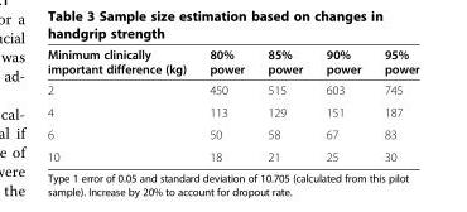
<table><thead><tr><td>Minimum clinically important difference (kg)</td><td>80% power</td><td>85% power</td><td>90% power</td><td>95% power</td></tr></thead><tbody><tr><td>2</td><td>450</td><td>515</td><td>603</td><td>745</td></tr><tr><td>4</td><td>113</td><td>129</td><td>151</td><td>187</td></tr><tr><td>6</td><td>50</td><td>58</td><td>67</td><td>83</td></tr><tr><td>10</td><td>18</td><td>21</td><td>25</td><td>30</td></tr></tbody></table>